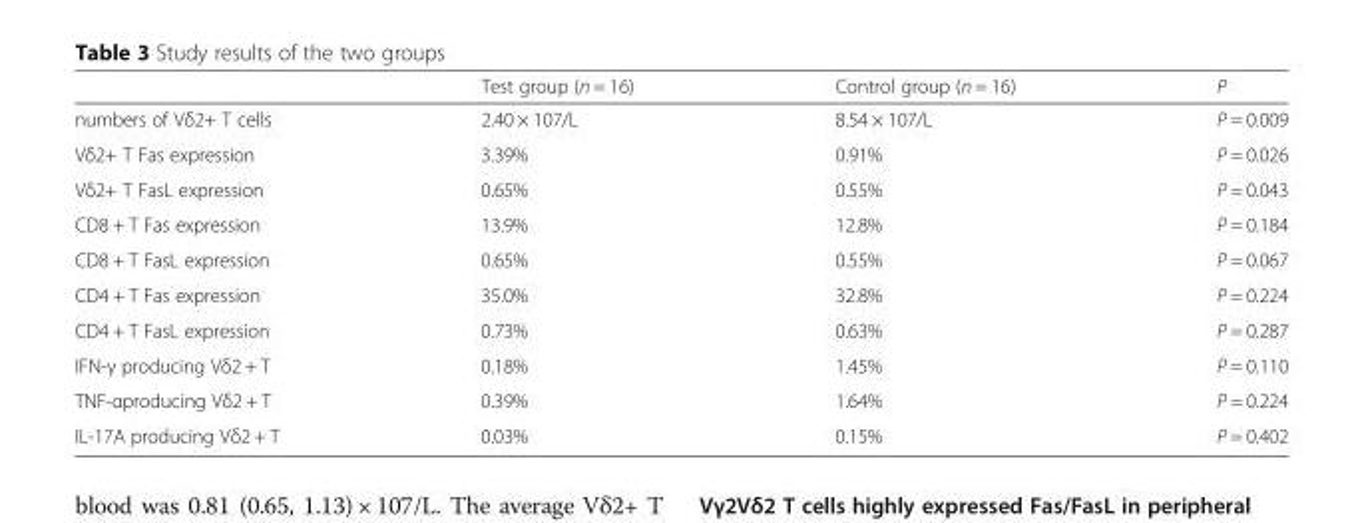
<table><thead><tr><td></td><td>Test group (n = 16)</td><td>Control group (n = 16)</td><td>P</td></tr></thead><tbody><tr><td>numbers of Vδ2+ T cells</td><td>2.40 × 107/L</td><td>8.54 × 107/L</td><td>P = 0.009</td></tr><tr><td>Vδ2+ T Fas expression</td><td>3.39%</td><td>0.91%</td><td>P = 0.026</td></tr><tr><td>Vδ2+ T FasL expression</td><td>0.65%</td><td>0.55%</td><td>P = 0.043</td></tr><tr><td>CD8 + T Fas expression</td><td>13.9%</td><td>12.8%</td><td>P = 0.184</td></tr><tr><td>CD8 + T FasL expression</td><td>0.65%</td><td>0.55%</td><td>P = 0.067</td></tr><tr><td>CD4 + T Fas expression</td><td>35.0%</td><td>32.8%</td><td>P = 0.224</td></tr><tr><td>CD4 + T FasL expression</td><td>0.73%</td><td>0.63%</td><td>P = 0.287</td></tr><tr><td>IFN-γ producing Vδ2 + T</td><td>0.18%</td><td>1.45%</td><td>P = 0.110</td></tr><tr><td>TNF-αproducing Vδ2 + T</td><td>0.39%</td><td>1.64%</td><td>P = 0.224</td></tr><tr><td>IL-17A producing Vδ2 + T</td><td>0.03%</td><td>0.15%</td><td>P = 0.402</td></tr></tbody></table>